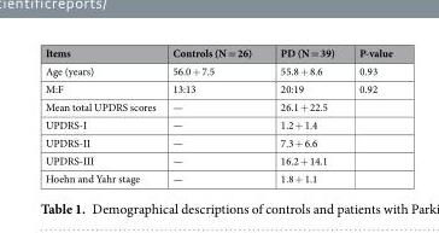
<table><thead><tr><td>Items</td><td>Controls (N = 26)</td><td>PD (N = 39)</td><td>P-value</td></tr></thead><tbody><tr><td>Age (years)</td><td>56.0 + 7.5</td><td>55.8 + 8.6</td><td>0.93</td></tr><tr><td>M:F</td><td>13:13</td><td>20:19</td><td>0.92</td></tr><tr><td>Mean total UPDRS scores</td><td>—</td><td>26.1 + 22.5</td><td></td></tr><tr><td>UPDRS-I</td><td>—</td><td>1.2 + 1.4</td><td></td></tr><tr><td>UPDRS-II</td><td>—</td><td>7.3 + 6.6</td><td></td></tr><tr><td>UPDRS-III</td><td>—</td><td>16.2 + 14.1</td><td></td></tr><tr><td>Hoehn and Yahr stage</td><td>—</td><td>1.8 + 1.1</td><td></td></tr></tbody></table>